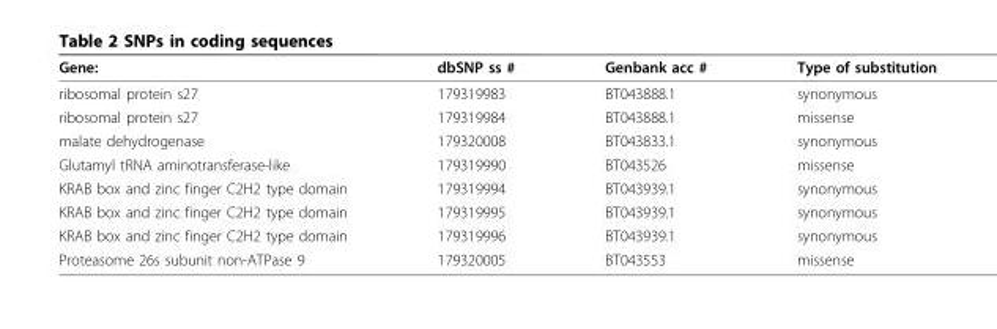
<table><thead><tr><td>Gene:</td><td>dbSNP ss #</td><td>Genbank acc #</td><td>Type of substitution</td></tr></thead><tbody><tr><td>ribosomal protein s27</td><td>179319983</td><td>BT043888.1</td><td>synonymous</td></tr><tr><td>ribosomal protein s27</td><td>179319984</td><td>BT043888.1</td><td>missense</td></tr><tr><td>malate dehydrogenase</td><td>179320008</td><td>BT043833.1</td><td>synonymous</td></tr><tr><td>Glutamyl tRNA aminotransferase-like</td><td>179319990</td><td>BT043526</td><td>missense</td></tr><tr><td>KRAB box and zinc finger C2H2 type domain</td><td>179319994</td><td>BT043939.1</td><td>synonymous</td></tr><tr><td>KRAB box and zinc finger C2H2 type domain</td><td>179319995</td><td>BT043939.1</td><td>synonymous</td></tr><tr><td>KRAB box and zinc finger C2H2 type domain</td><td>179319996</td><td>BT043939.1</td><td>synonymous</td></tr><tr><td>Proteasome 26s subunit non-ATPase 9</td><td>179320005</td><td>BT043553</td><td>missense</td></tr></tbody></table>